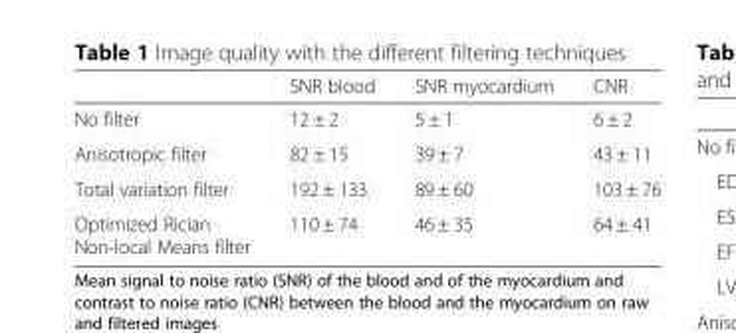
<table><thead><tr><td></td><td>SNR blood</td><td>SNR myocardium</td><td>CNR</td></tr></thead><tbody><tr><td>No filter</td><td>12 ± 2</td><td>5 ± 1</td><td>6 ± 2</td></tr><tr><td>Anisotropic filter</td><td>82 ± 15</td><td>39 ± 7</td><td>43 ± 11</td></tr><tr><td>Total variation filter</td><td>192 ± 133</td><td>89 ± 60</td><td>103 ± 76</td></tr><tr><td>Optimized Rician Non-local Means filter</td><td>110 ± 74</td><td>46 ± 35</td><td>64 ± 41</td></tr></tbody></table>